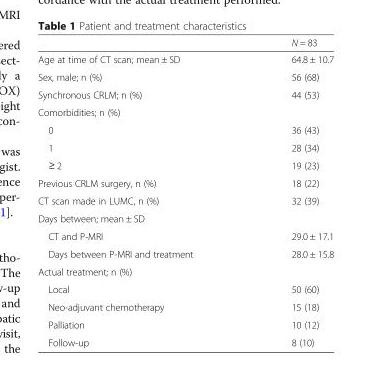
<table><thead><tr><td></td><td>N = 83</td></tr></thead><tbody><tr><td>Age at time of CT scan; mean ± SD</td><td>64.8 ± 10.7</td></tr><tr><td>Sex, male; n (%)</td><td>56 (68)</td></tr><tr><td>Synchronous CRLM; n (%)</td><td>44 (53)</td></tr><tr><td colspan="2">Comorbidities; n (%)</td></tr><tr><td>0</td><td>36 (43)</td></tr><tr><td>1</td><td>28 (34)</td></tr><tr><td>≥ 2</td><td>19 (23)</td></tr><tr><td>Previous CRLM surgery, n (%)</td><td>18 (22)</td></tr><tr><td>CT scan made in LUMC, n (%)</td><td>32 (39)</td></tr><tr><td colspan="2">Days between; mean ± SD</td></tr><tr><td>CT and P-MRI</td><td>29.0 ± 17.1</td></tr><tr><td>Days between P-MRI and treatment</td><td>28.0 ± 15.8</td></tr><tr><td colspan="2">Actual treatment; n (%)</td></tr><tr><td>Local</td><td>50 (60)</td></tr><tr><td>Neo-adjuvant chemotherapy</td><td>15 (18)</td></tr><tr><td>Palliation</td><td>10 (12)</td></tr><tr><td>Follow-up</td><td>8 (10)</td></tr></tbody></table>